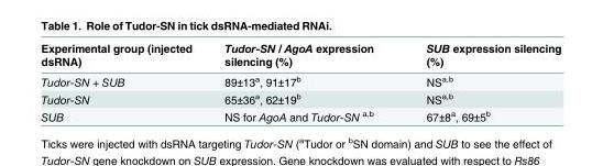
<table><thead><tr><td>Experimental group (injected dsRNA)</td><td>Tudor-SN / AgoA expression silencing (%)</td><td>SUB expression silencing (%)</td></tr></thead><tbody><tr><td>Tudor-SN + SUB</td><td>89±13<sup>a</sup>, 91±17<sup>b</sup></td><td>NS<sup>a,b</sup></td></tr><tr><td>Tudor-SN</td><td>65±36<sup>a</sup>, 62±19<sup>b</sup></td><td>NS<sup>a,b</sup></td></tr><tr><td>SUB</td><td>NS for AgoA and Tudor-SN <sup>a,b</sup></td><td>67±8<sup>a</sup>, 69±5<sup>b</sup></td></tr></tbody></table>